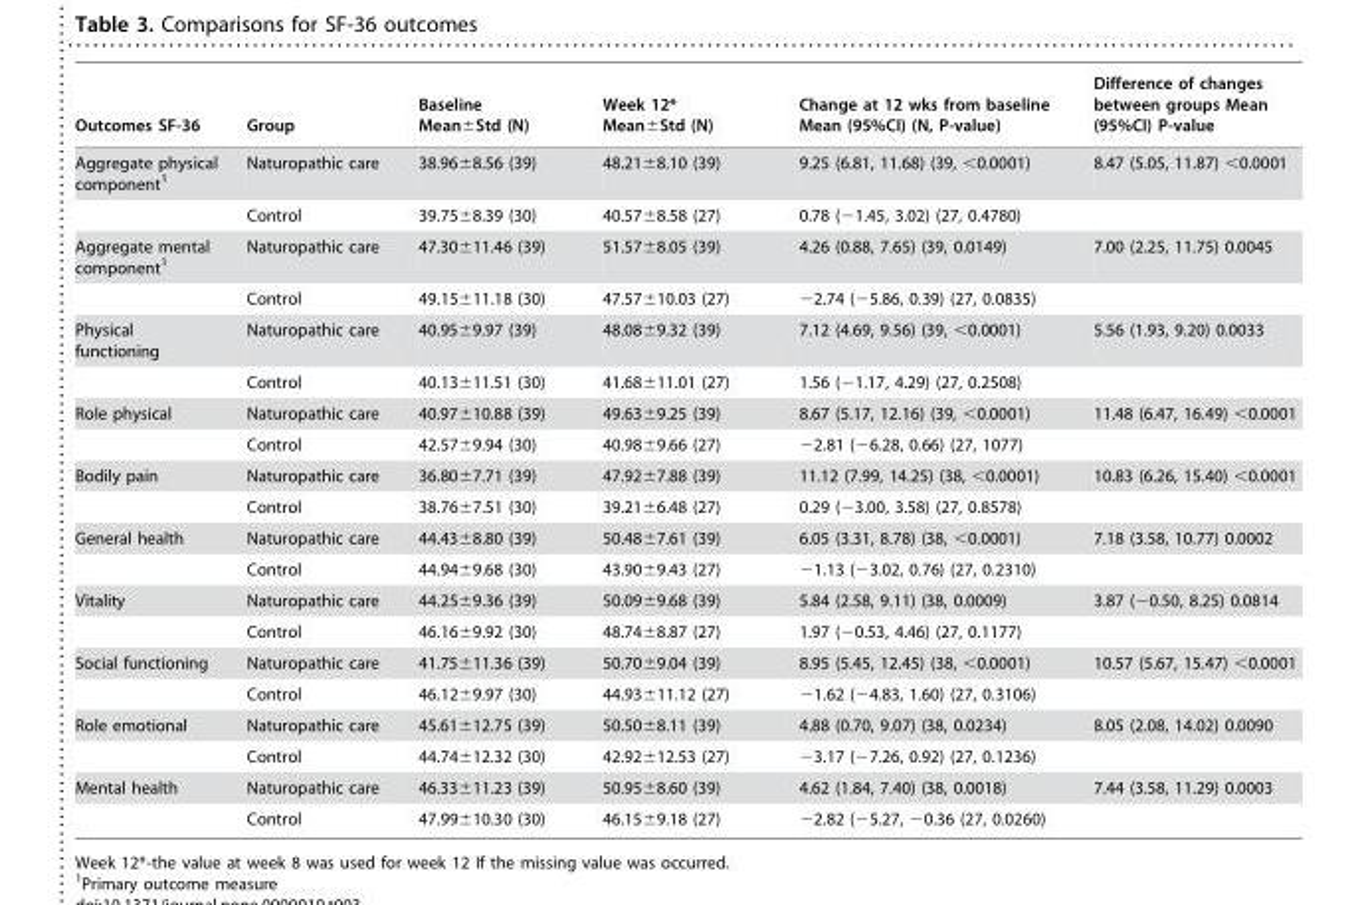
<table><thead><tr><td>Outcomes SF-36</td><td>Group</td><td>Baseline Mean±Std (N)</td><td>Week 12* Mean±Std (N)</td><td>Change at 12 wks from baseline Mean (95%CI) (N, P-value)</td><td>Difference of changes between groups Mean (95%CI) P-value</td></tr></thead><tbody><tr><td rowspan="2">Aggregate physical component<sup>1</sup></td><td>Naturopathic care</td><td>38.96±8.56 (39)</td><td>48.21±8.10 (39)</td><td>9.25 (6.81, 11.68) (39, &lt;0.0001)</td><td>8.47 (5.05, 11.87) &lt;0.0001</td></tr><tr><td>Control</td><td>39.75±8.39 (30)</td><td>40.57±8.58 (27)</td><td>0.78 (−1.45, 3.02) (27, 0.4780)</td><td></td></tr><tr><td rowspan="2">Aggregate mental component<sup>1</sup></td><td>Naturopathic care</td><td>47.30±11.46 (39)</td><td>51.57±8.05 (39)</td><td>4.26 (0.88, 7.65) (39, 0.0149)</td><td>7.00 (2.25, 11.75) 0.0045</td></tr><tr><td>Control</td><td>49.15±11.18 (30)</td><td>47.57±10.03 (27)</td><td>−2.74 (−5.86, 0.39) (27, 0.0835)</td><td></td></tr><tr><td rowspan="2">Physical functioning</td><td>Naturopathic care</td><td>40.95±9.97 (39)</td><td>48.08±9.32 (39)</td><td>7.12 (4.69, 9.56) (39, &lt;0.0001)</td><td>5.56 (1.93, 9.20) 0.0033</td></tr><tr><td>Control</td><td>40.13±11.51 (30)</td><td>41.68±11.01 (27)</td><td>1.56 (−1.17, 4.29) (27, 0.2508)</td><td></td></tr><tr><td rowspan="2">Role physical</td><td>Naturopathic care</td><td>40.97±10.88 (39)</td><td>49.63±9.25 (39)</td><td>8.67 (5.17, 12.16) (39, &lt;0.0001)</td><td>11.48 (6.47, 16.49) &lt;0.0001</td></tr><tr><td>Control</td><td>42.57±9.94 (30)</td><td>40.98±9.66 (27)</td><td>−2.81 (−6.28, 0.66) (27, 1077)</td><td></td></tr><tr><td rowspan="2">Bodily pain</td><td>Naturopathic care</td><td>36.80±7.71 (39)</td><td>47.92±7.88 (39)</td><td>11.12 (7.99, 14.25) (38, &lt;0.0001)</td><td>10.83 (6.26, 15.40) &lt;0.0001</td></tr><tr><td>Control</td><td>38.76±7.51 (30)</td><td>39.21±6.48 (27)</td><td>0.29 (−3.00, 3.58) (27, 0.8578)</td><td></td></tr><tr><td rowspan="2">General health</td><td>Naturopathic care</td><td>44.43±8.80 (39)</td><td>50.48±7.61 (39)</td><td>6.05 (3.31, 8.78) (38, &lt;0.0001)</td><td>7.18 (3.58, 10.77) 0.0002</td></tr><tr><td>Control</td><td>44.94±9.68 (30)</td><td>43.90±9.43 (27)</td><td>−1.13 (−3.02, 0.76) (27, 0.2310)</td><td></td></tr><tr><td rowspan="2">Vitality</td><td>Naturopathic care</td><td>44.25±9.36 (39)</td><td>50.09±9.68 (39)</td><td>5.84 (2.58, 9.11) (38, 0.0009)</td><td>3.87 (−0.50, 8.25) 0.0814</td></tr><tr><td>Control</td><td>46.16±9.92 (30)</td><td>48.74±8.87 (27)</td><td>1.97 (−0.53, 4.46) (27, 0.1177)</td><td></td></tr><tr><td rowspan="2">Social functioning</td><td>Naturopathic care</td><td>41.75±11.36 (39)</td><td>50.70±9.04 (39)</td><td>8.95 (5.45, 12.45) (38, &lt;0.0001)</td><td>10.57 (5.67, 15.47) &lt;0.0001</td></tr><tr><td>Control</td><td>46.12±9.97 (30)</td><td>44.93±11.12 (27)</td><td>−1.62 (−4.83, 1.60) (27, 0.3106)</td><td></td></tr><tr><td rowspan="2">Role emotional</td><td>Naturopathic care</td><td>45.61±12.75 (39)</td><td>50.50±8.11 (39)</td><td>4.88 (0.70, 9.07) (38, 0.0234)</td><td>8.05 (2.08, 14.02) 0.0090</td></tr><tr><td>Control</td><td>44.74±12.32 (30)</td><td>42.92±12.53 (27)</td><td>−3.17 (−7.26, 0.92) (27, 0.1236)</td><td></td></tr><tr><td rowspan="2">Mental health</td><td>Naturopathic care</td><td>46.33±11.23 (39)</td><td>50.95±8.60 (39)</td><td>4.62 (1.84, 7.40) (38, 0.0018)</td><td>7.44 (3.58, 11.29) 0.0003</td></tr><tr><td>Control</td><td>47.99±10.30 (30)</td><td>46.15±9.18 (27)</td><td>−2.82 (−5.27, −0.36 (27, 0.0260)</td><td></td></tr></tbody></table>